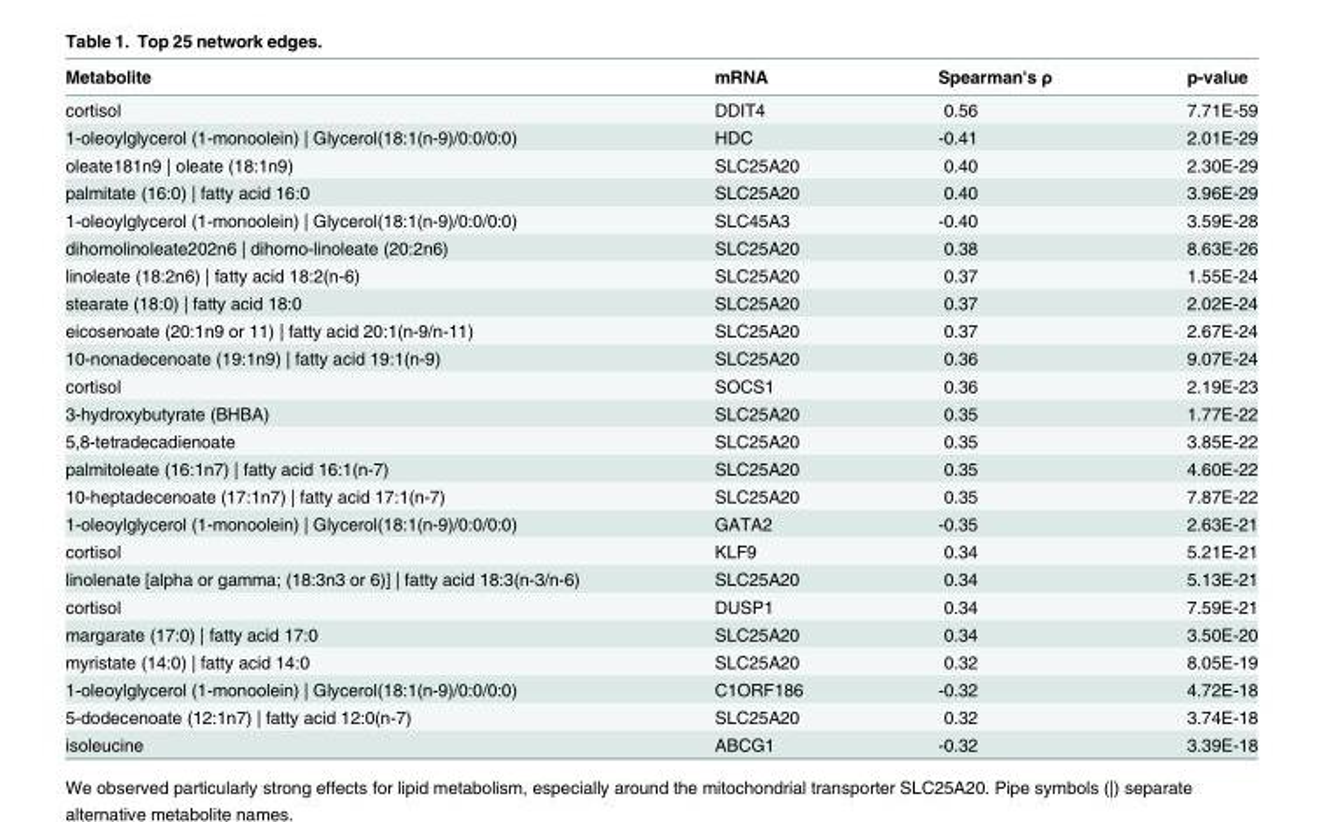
<table><thead><tr><td>Metabolite</td><td>mRNA</td><td>Spearman&#x27;s ρ</td><td>p-value</td></tr></thead><tbody><tr><td>cortisol</td><td>DDIT4</td><td>0.56</td><td>7.71E-59</td></tr><tr><td>1-oleoylglycerol (1-monoolein) | Glycerol(18:1(n-9)/0:0/0:0)</td><td>HDC</td><td>-0.41</td><td>2.01E-29</td></tr><tr><td>oleate181n9 | oleate (18:1n9)</td><td>SLC25A20</td><td>0.40</td><td>2.30E-29</td></tr><tr><td>palmitate (16:0) | fatty acid 16:0</td><td>SLC25A20</td><td>0.40</td><td>3.96E-29</td></tr><tr><td>1-oleoylglycerol (1-monoolein) | Glycerol(18:1(n-9)/0:0/0:0)</td><td>SLC45A3</td><td>-0.40</td><td>3.59E-28</td></tr><tr><td>dihomolinoleate202n6 | dihomo-linoleate (20:2n6)</td><td>SLC25A20</td><td>0.38</td><td>8.63E-26</td></tr><tr><td>linoleate (18:2n6) | fatty acid 18:2(n-6)</td><td>SLC25A20</td><td>0.37</td><td>1.55E-24</td></tr><tr><td>stearate (18:0) | fatty acid 18:0</td><td>SLC25A20</td><td>0.37</td><td>2.02E-24</td></tr><tr><td>eicosenoate (20:1n9 or 11) | fatty acid 20:1(n-9/n-11)</td><td>SLC25A20</td><td>0.37</td><td>2.67E-24</td></tr><tr><td>10-nonadecenoate (19:1n9) | fatty acid 19:1(n-9)</td><td>SLC25A20</td><td>0.36</td><td>9.07E-24</td></tr><tr><td>cortisol</td><td>SOCS1</td><td>0.36</td><td>2.19E-23</td></tr><tr><td>3-hydroxybutyrate (BHBA)</td><td>SLC25A20</td><td>0.35</td><td>1.77E-22</td></tr><tr><td>5,8-tetradecadienoate</td><td>SLC25A20</td><td>0.35</td><td>3.85E-22</td></tr><tr><td>palmitoleate (16:1n7) | fatty acid 16:1(n-7)</td><td>SLC25A20</td><td>0.35</td><td>4.60E-22</td></tr><tr><td>10-heptadecenoate (17:1n7) | fatty acid 17:1(n-7)</td><td>SLC25A20</td><td>0.35</td><td>7.87E-22</td></tr><tr><td>1-oleoylglycerol (1-monoolein) | Glycerol(18:1(n-9)/0:0/0:0)</td><td>GATA2</td><td>-0.35</td><td>2.63E-21</td></tr><tr><td>cortisol</td><td>KLF9</td><td>0.34</td><td>5.21E-21</td></tr><tr><td>linolenate [alpha or gamma; (18:3n3 or 6)] | fatty acid 18:3(n-3/n-6)</td><td>SLC25A20</td><td>0.34</td><td>5.13E-21</td></tr><tr><td>cortisol</td><td>DUSP1</td><td>0.34</td><td>7.59E-21</td></tr><tr><td>margarate (17:0) | fatty acid 17:0</td><td>SLC25A20</td><td>0.34</td><td>3.50E-20</td></tr><tr><td>myristate (14:0) | fatty acid 14:0</td><td>SLC25A20</td><td>0.32</td><td>8.05E-19</td></tr><tr><td>1-oleoylglycerol (1-monoolein) | Glycerol(18:1(n-9)/0:0/0:0)</td><td>C1ORF186</td><td>-0.32</td><td>4.72E-18</td></tr><tr><td>5-dodecenoate (12:1n7) | fatty acid 12:0(n-7)</td><td>SLC25A20</td><td>0.32</td><td>3.74E-18</td></tr><tr><td>isoleucine</td><td>ABCG1</td><td>-0.32</td><td>3.39E-18</td></tr></tbody></table>